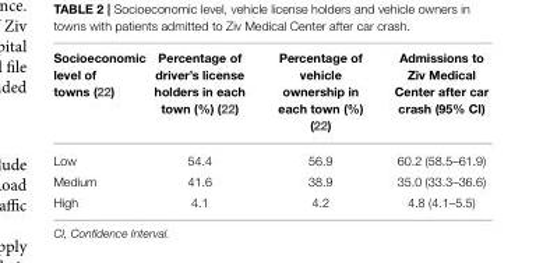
<table><thead><tr><td>Socioeconomic level of towns (22)</td><td>Percentage of driver’s license holders in each town (%) (22)</td><td>Percentage of vehicle ownership in each town (%) (22)</td><td>Admissions to Ziv Medical Center after car crash (95% CI)</td></tr></thead><tbody><tr><td>Low</td><td>54.4</td><td>56.9</td><td>60.2 (58.5–61.9)</td></tr><tr><td>Medium</td><td>41.6</td><td>38.9</td><td>35.0 (33.3–36.6)</td></tr><tr><td>High</td><td>4.1</td><td>4.2</td><td>4.8 (4.1–5.5)</td></tr></tbody></table>